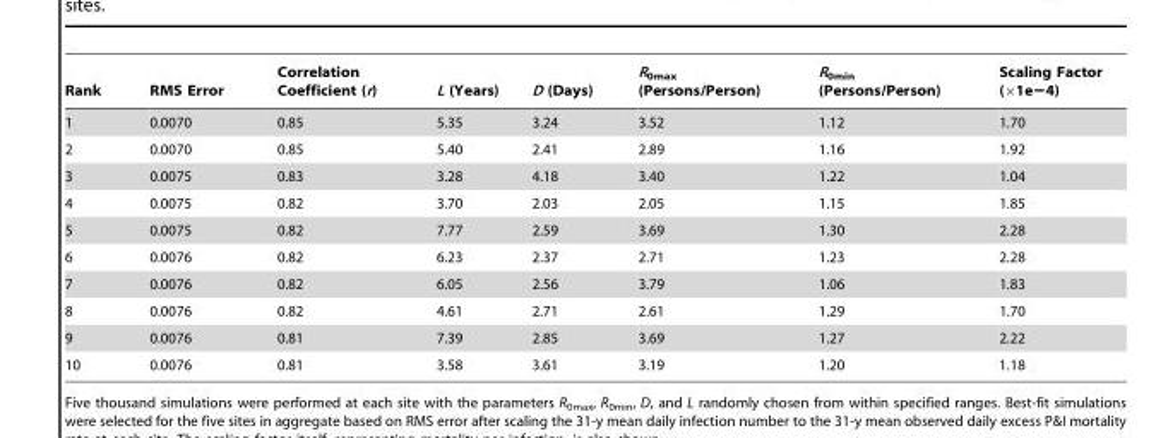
<table><thead><tr><td>Rank</td><td>RMS Error</td><td>Correlation Coefficient (r)</td><td>L (Years)</td><td>D (Days)</td><td>R<sub>0max</sub> (Persons/Person)</td><td>R<sub>0min</sub> (Persons/Person)</td><td>Scaling Factor (×1e−4)</td></tr></thead><tbody><tr><td>1</td><td>0.0070</td><td>0.85</td><td>5.35</td><td>3.24</td><td>3.52</td><td>1.12</td><td>1.70</td></tr><tr><td>2</td><td>0.0070</td><td>0.85</td><td>5.40</td><td>2.41</td><td>2.89</td><td>1.16</td><td>1.92</td></tr><tr><td>3</td><td>0.0075</td><td>0.83</td><td>3.28</td><td>4.18</td><td>3.40</td><td>1.22</td><td>1.04</td></tr><tr><td>4</td><td>0.0075</td><td>0.82</td><td>3.70</td><td>2.03</td><td>2.05</td><td>1.15</td><td>1.85</td></tr><tr><td>5</td><td>0.0075</td><td>0.82</td><td>7.77</td><td>2.59</td><td>3.69</td><td>1.30</td><td>2.28</td></tr><tr><td>6</td><td>0.0076</td><td>0.82</td><td>6.23</td><td>2.37</td><td>2.71</td><td>1.23</td><td>2.28</td></tr><tr><td>7</td><td>0.0076</td><td>0.82</td><td>6.05</td><td>2.56</td><td>3.79</td><td>1.06</td><td>1.83</td></tr><tr><td>8</td><td>0.0076</td><td>0.82</td><td>4.61</td><td>2.71</td><td>2.61</td><td>1.29</td><td>1.70</td></tr><tr><td>9</td><td>0.0076</td><td>0.81</td><td>7.39</td><td>2.85</td><td>3.69</td><td>1.27</td><td>2.22</td></tr><tr><td>10</td><td>0.0076</td><td>0.81</td><td>3.58</td><td>3.61</td><td>3.19</td><td>1.20</td><td>1.18</td></tr></tbody></table>